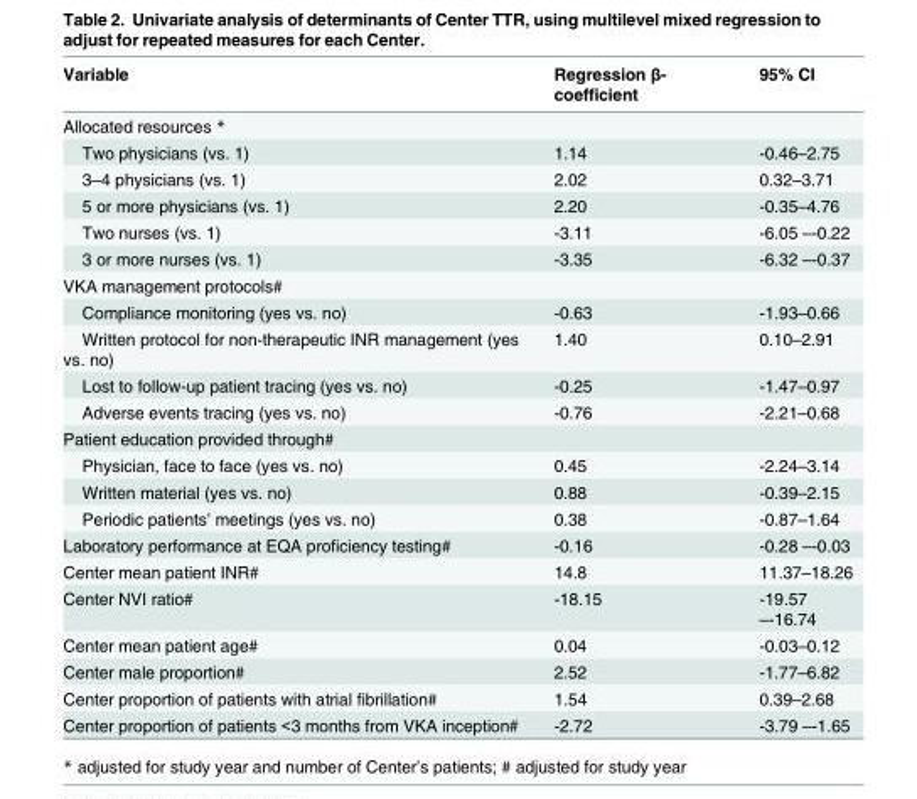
<table><thead><tr><td>Variable</td><td>Regression β- coefficient</td><td>95% CI</td></tr></thead><tbody><tr><td colspan="3">Allocated resources *</td></tr><tr><td>Two physicians (vs. 1)</td><td>1.14</td><td>-0.46–2.75</td></tr><tr><td>3–4 physicians (vs. 1)</td><td>2.02</td><td>0.32–3.71</td></tr><tr><td>5 or more physicians (vs. 1)</td><td>2.20</td><td>-0.35–4.76</td></tr><tr><td>Two nurses (vs. 1)</td><td>-3.11</td><td>-6.05 –-0.22</td></tr><tr><td>3 or more nurses (vs. 1)</td><td>-3.35</td><td>-6.32 –-0.37</td></tr><tr><td colspan="3">VKA management protocols#</td></tr><tr><td>Compliance monitoring (yes vs. no)</td><td>-0.63</td><td>-1.93–0.66</td></tr><tr><td>Written protocol for non-therapeutic INR management (yes vs. no)</td><td>1.40</td><td>0.10–2.91</td></tr><tr><td>Lost to follow-up patient tracing (yes vs. no)</td><td>-0.25</td><td>-1.47–0.97</td></tr><tr><td>Adverse events tracing (yes vs. no)</td><td>-0.76</td><td>-2.21–0.68</td></tr><tr><td colspan="3">Patient education provided through#</td></tr><tr><td>Physician, face to face (yes vs. no)</td><td>0.45</td><td>-2.24–3.14</td></tr><tr><td>Written material (yes vs. no)</td><td>0.88</td><td>-0.39–2.15</td></tr><tr><td>Periodic patients’ meetings (yes vs. no)</td><td>0.38</td><td>-0.87–1.64</td></tr><tr><td>Laboratory performance at EQA proficiency testing#</td><td>-0.16</td><td>-0.28 –-0.03</td></tr><tr><td>Center mean patient INR#</td><td>14.8</td><td>11.37–18.26</td></tr><tr><td>Center NVI ratio#</td><td>-18.15</td><td>-19.57 –-16.74</td></tr><tr><td>Center mean patient age#</td><td>0.04</td><td>-0.03–0.12</td></tr><tr><td>Center male proportion#</td><td>2.52</td><td>-1.77–6.82</td></tr><tr><td>Center proportion of patients with atrial fibrillation#</td><td>1.54</td><td>0.39–2.68</td></tr><tr><td>Center proportion of patients &lt;3 months from VKA inception#</td><td>-2.72</td><td>-3.79 –-1.65</td></tr></tbody></table>